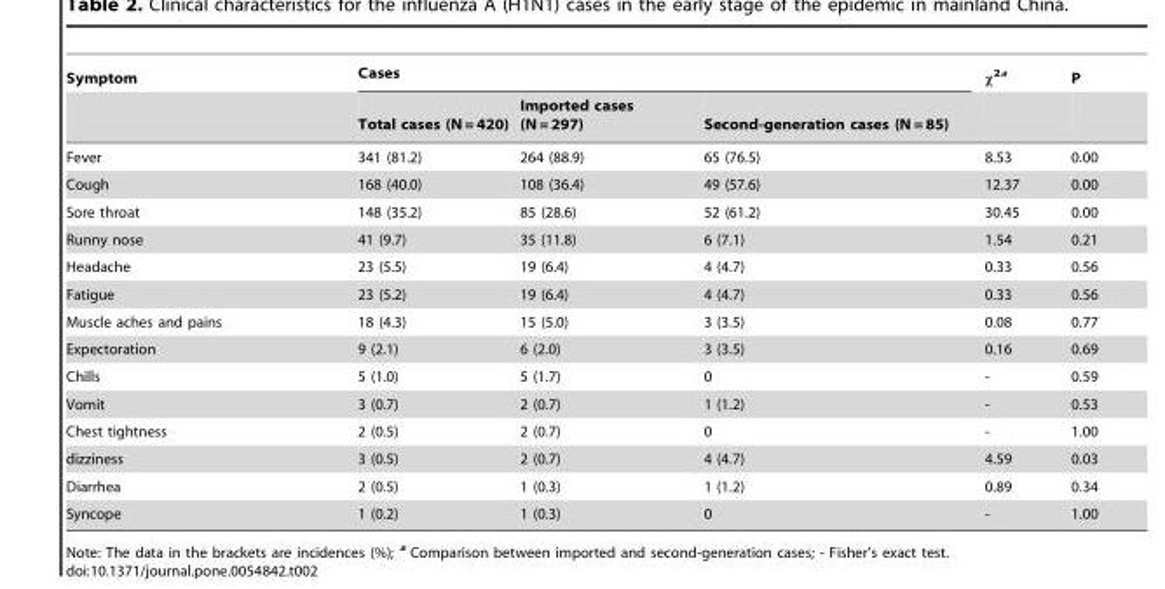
<table><thead><tr><td rowspan="2">Symptom</td><td colspan="3">Cases</td><td rowspan="2">χ<sup>2a</sup></td><td rowspan="2">P</td></tr><tr><td>Total cases (N = 420)</td><td>Imported cases (N = 297)</td><td>Second-generation cases (N = 85)</td></tr></thead><tbody><tr><td>Fever</td><td>341 (81.2)</td><td>264 (88.9)</td><td>65 (76.5)</td><td>8.53</td><td>0.00</td></tr><tr><td>Cough</td><td>168 (40.0)</td><td>108 (36.4)</td><td>49 (57.6)</td><td>12.37</td><td>0.00</td></tr><tr><td>Sore throat</td><td>148 (35.2)</td><td>85 (28.6)</td><td>52 (61.2)</td><td>30.45</td><td>0.00</td></tr><tr><td>Runny nose</td><td>41 (9.7)</td><td>35 (11.8)</td><td>6 (7.1)</td><td>1.54</td><td>0.21</td></tr><tr><td>Headache</td><td>23 (5.5)</td><td>19 (6.4)</td><td>4 (4.7)</td><td>0.33</td><td>0.56</td></tr><tr><td>Fatigue</td><td>23 (5.2)</td><td>19 (6.4)</td><td>4 (4.7)</td><td>0.33</td><td>0.56</td></tr><tr><td>Muscle aches and pains</td><td>18 (4.3)</td><td>15 (5.0)</td><td>3 (3.5)</td><td>0.08</td><td>0.77</td></tr><tr><td>Expectoration</td><td>9 (2.1)</td><td>6 (2.0)</td><td>3 (3.5)</td><td>0.16</td><td>0.69</td></tr><tr><td>Chills</td><td>5 (1.0)</td><td>5 (1.7)</td><td>0</td><td>-</td><td>0.59</td></tr><tr><td>Vomit</td><td>3 (0.7)</td><td>2 (0.7)</td><td>1 (1.2)</td><td>-</td><td>0.53</td></tr><tr><td>Chest tightness</td><td>2 (0.5)</td><td>2 (0.7)</td><td>0</td><td>-</td><td>1.00</td></tr><tr><td>dizziness</td><td>3 (0.5)</td><td>2 (0.7)</td><td>4 (4.7)</td><td>4.59</td><td>0.03</td></tr><tr><td>Diarrhea</td><td>2 (0.5)</td><td>1 (0.3)</td><td>1 (1.2)</td><td>0.89</td><td>0.34</td></tr><tr><td>Syncope</td><td>1 (0.2)</td><td>1 (0.3)</td><td>0</td><td>-</td><td>1.00</td></tr></tbody></table>